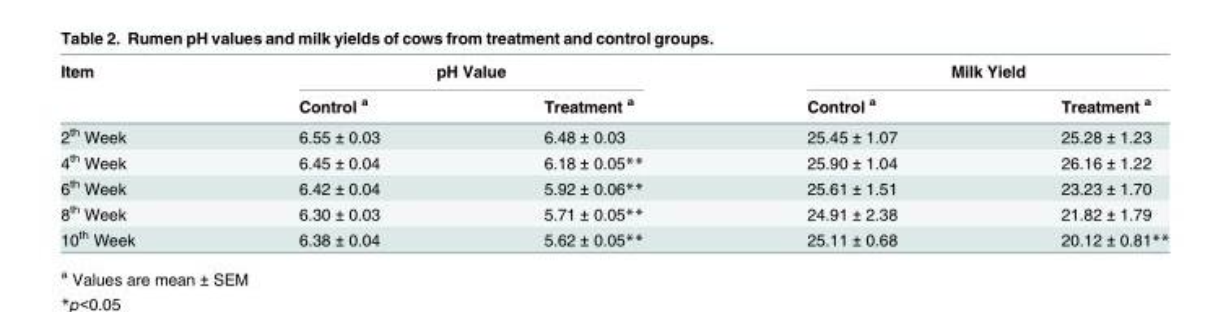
<table><thead><tr><td rowspan="2">Item</td><td colspan="2">pH Value</td><td colspan="2">Milk Yield</td></tr><tr><td>Control <sup>a</sup></td><td>Treatment <sup>a</sup></td><td>Control <sup>a</sup></td><td>Treatment <sup>a</sup></td></tr></thead><tbody><tr><td>2<sup>th</sup> Week</td><td>6.55 ± 0.03</td><td>6.48 ± 0.03</td><td>25.45 ± 1.07</td><td>25.28 ± 1.23</td></tr><tr><td>4<sup>th</sup> Week</td><td>6.45 ± 0.04</td><td>6.18 ± 0.05**</td><td>25.90 ± 1.04</td><td>26.16 ± 1.22</td></tr><tr><td>6<sup>th</sup> Week</td><td>6.42 ± 0.04</td><td>5.92 ± 0.06**</td><td>25.61 ± 1.51</td><td>23.23 ± 1.70</td></tr><tr><td>8<sup>th</sup> Week</td><td>6.30 ± 0.03</td><td>5.71 ± 0.05**</td><td>24.91 ± 2.38</td><td>21.82 ± 1.79</td></tr><tr><td>10<sup>th</sup> Week</td><td>6.38 ± 0.04</td><td>5.62 ± 0.05**</td><td>25.11 ± 0.68</td><td>20.12 ± 0.81**</td></tr></tbody></table>